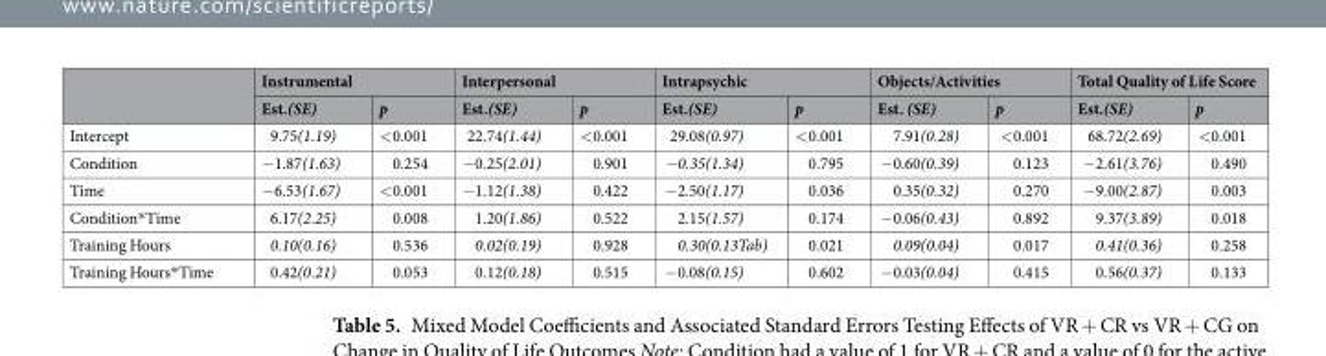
<table><thead><tr><td rowspan="2"></td><td colspan="2">Instrumental</td><td colspan="2">Interpersonal</td><td colspan="2">Intrapsychic</td><td colspan="2">Objects/Activities</td><td colspan="2">Total Quality of Life Score</td></tr><tr><td>Est.(SE)</td><td>p</td><td>Est.(SE)</td><td>p</td><td>Est.(SE)</td><td>p</td><td>Est. (SE)</td><td>p</td><td>Est.(SE)</td><td>p</td></tr></thead><tbody><tr><td>Intercept</td><td>9.75(1.19)</td><td>&lt;0.001</td><td>22.74(1.44)</td><td>&lt;0.001</td><td>29.08(0.97)</td><td>&lt;0.001</td><td>7.91(0.28)</td><td>&lt;0.001</td><td>68.72(2.69)</td><td>&lt;0.001</td></tr><tr><td>Condition</td><td>−1.87(1.63)</td><td>0.254</td><td>−0.25(2.01)</td><td>0.901</td><td>−0.35(1.34)</td><td>0.795</td><td>−0.60(0.39)</td><td>0.123</td><td>−2.61(3.76)</td><td>0.490</td></tr><tr><td>Time</td><td>−6.53(1.67)</td><td>&lt;0.001</td><td>−1.12(1.38)</td><td>0.422</td><td>−2.50(1.17)</td><td>0.036</td><td>0.35(0.32)</td><td>0.270</td><td>−9.00(2.87)</td><td>0.003</td></tr><tr><td>Condition*Time</td><td>6.17(2.25)</td><td>0.008</td><td>1.20(1.86)</td><td>0.522</td><td>2.15(1.57)</td><td>0.174</td><td>−0.06(0.43)</td><td>0.892</td><td>9.37(3.89)</td><td>0.018</td></tr><tr><td>Training Hours</td><td>0.10(0.16)</td><td>0.536</td><td>0.02(0.19)</td><td>0.928</td><td>0.30(0.13Tab)</td><td>0.021</td><td>0.09(0.04)</td><td>0.017</td><td>0.41(0.36)</td><td>0.258</td></tr><tr><td>Training Hours*Time</td><td>0.42(0.21)</td><td>0.053</td><td>0.12(0.18)</td><td>0.515</td><td>−0.08(0.15)</td><td>0.602</td><td>−0.03(0.04)</td><td>0.415</td><td>0.56(0.37)</td><td>0.133</td></tr></tbody></table>